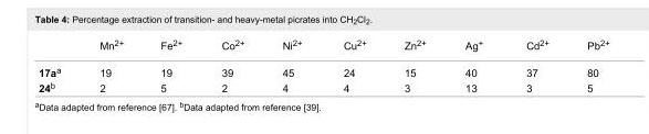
<table><thead><tr><td></td><td>Mn<sup>2+</sup></td><td>Fe<sup>2+</sup></td><td>Co<sup>2+</sup></td><td>Ni<sup>2+</sup></td><td>Cu<sup>2+</sup></td><td>Zn<sup>2+</sup></td><td>Ag<sup>+</sup></td><td>Cd<sup>2+</sup></td><td>Pb<sup>2+</sup></td></tr></thead><tbody><tr><td>17a<sup>a</sup></td><td>19</td><td>19</td><td>39</td><td>45</td><td>24</td><td>15</td><td>40</td><td>37</td><td>80</td></tr><tr><td>24<sup>b</sup></td><td>2</td><td>5</td><td>2</td><td>4</td><td>4</td><td>3</td><td>13</td><td>3</td><td>5</td></tr></tbody></table>